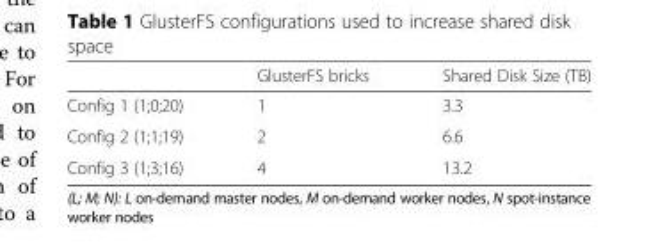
<table><thead><tr><td></td><td>GlusterFS bricks</td><td>Shared Disk Size (TB)</td></tr></thead><tbody><tr><td>Config 1 (1;0;20)</td><td>1</td><td>3.3</td></tr><tr><td>Config 2 (1;1;19)</td><td>2</td><td>6.6</td></tr><tr><td>Config 3 (1;3;16)</td><td>4</td><td>13.2</td></tr></tbody></table>